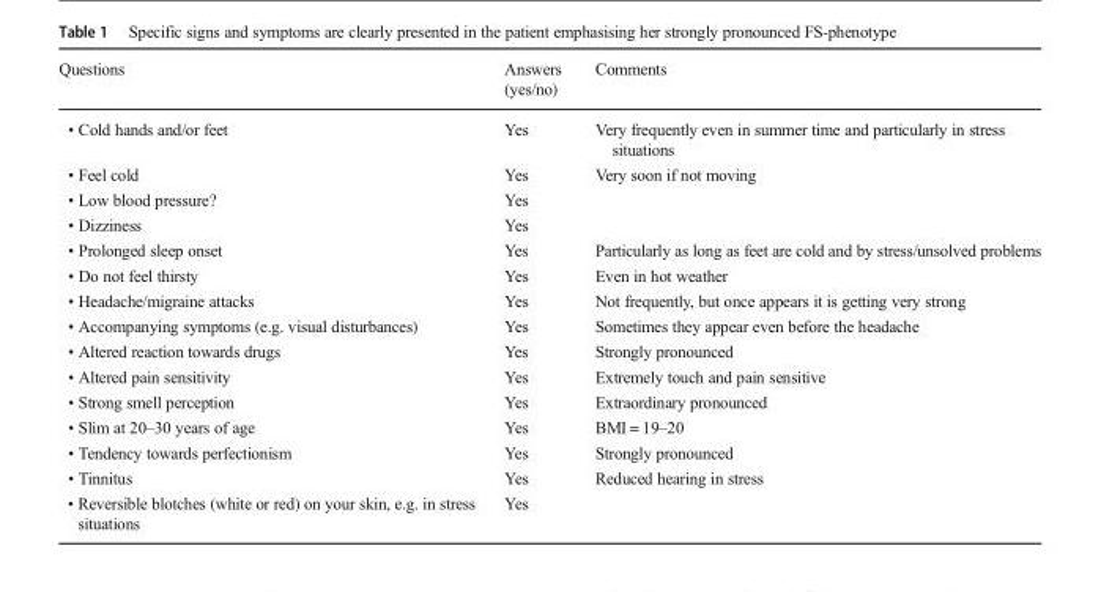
<table><thead><tr><td>Questions</td><td>Answers (yes/no)</td><td>Comments</td></tr></thead><tbody><tr><td>• Cold hands and/or feet</td><td>Yes</td><td>Very frequently even in summer time and particularly in stress situations</td></tr><tr><td>• Feel cold</td><td>Yes</td><td>Very soon if not moving</td></tr><tr><td>• Low blood pressure?</td><td>Yes</td><td></td></tr><tr><td>• Dizziness</td><td>Yes</td><td></td></tr><tr><td>• Prolonged sleep onset</td><td>Yes</td><td>Particularly as long as feet are cold and by stress/unsolved problems</td></tr><tr><td>• Do not feel thirsty</td><td>Yes</td><td>Even in hot weather</td></tr><tr><td>• Headache/migraine attacks</td><td>Yes</td><td>Not frequently, but once appears it is getting very strong</td></tr><tr><td>• Accompanying symptoms (e.g. visual disturbances)</td><td>Yes</td><td>Sometimes they appear even before the headache</td></tr><tr><td>• Altered reaction towards drugs</td><td>Yes</td><td>Strongly pronounced</td></tr><tr><td>• Altered pain sensitivity</td><td>Yes</td><td>Extremely touch and pain sensitive</td></tr><tr><td>• Strong smell perception</td><td>Yes</td><td>Extraordinary pronounced</td></tr><tr><td>• Slim at 20–30 years of age</td><td>Yes</td><td>BMI = 19–20</td></tr><tr><td>• Tendency towards perfectionism</td><td>Yes</td><td>Strongly pronounced</td></tr><tr><td>• Tinnitus</td><td>Yes</td><td>Reduced hearing in stress</td></tr><tr><td>• Reversible blotches (white or red) on your skin, e.g. in stress situations</td><td>Yes</td><td></td></tr></tbody></table>